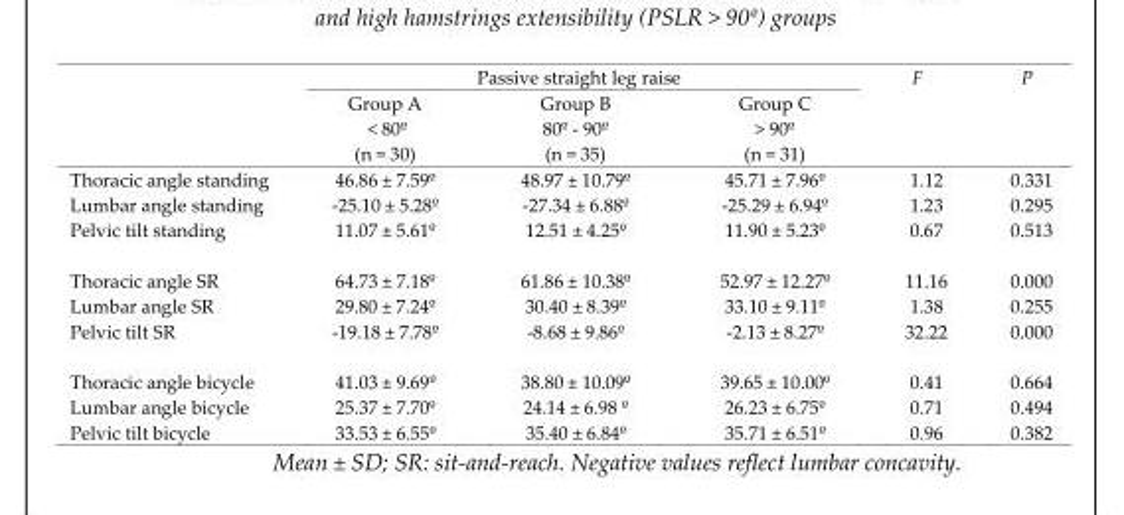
<table><thead><tr><td rowspan="2"></td><td colspan="3">Passive straight leg raise</td><td rowspan="2">F</td><td rowspan="2">P</td></tr><tr><td>Group A &lt; 80º (n = 30)</td><td>Group B 80º - 90º (n = 35)</td><td>Group C &gt; 90º (n = 31)</td></tr></thead><tbody><tr><td>Thoracic angle standing</td><td>46.86 ± 7.59º</td><td>48.97 ± 10.79º</td><td>45.71 ± 7.96º</td><td>1.12</td><td>0.331</td></tr><tr><td>Lumbar angle standing</td><td>-25.10 ± 5.28º</td><td>-27.34 ± 6.88º</td><td>-25.29 ± 6.94º</td><td>1.23</td><td>0.295</td></tr><tr><td>Pelvic tilt standing</td><td>11.07 ± 5.61º</td><td>12.51 ± 4.25º</td><td>11.90 ± 5.23º</td><td>0.67</td><td>0.513</td></tr><tr><td>Thoracic angle SR</td><td>64.73 ± 7.18º</td><td>61.86 ± 10.38º</td><td>52.97 ± 12.27º</td><td>11.16</td><td>0.000</td></tr><tr><td>Lumbar angle SR</td><td>29.80 ± 7.24º</td><td>30.40 ± 8.39º</td><td>33.10 ± 9.11º</td><td>1.38</td><td>0.255</td></tr><tr><td>Pelvic tilt SR</td><td>-19.18 ± 7.78º</td><td>-8.68 ± 9.86º</td><td>-2.13 ± 8.27º</td><td>32.22</td><td>0.000</td></tr><tr><td>Thoracic angle bicycle</td><td>41.03 ± 9.69º</td><td>38.80 ± 10.09º</td><td>39.65 ± 10.00º</td><td>0.41</td><td>0.664</td></tr><tr><td>Lumbar angle bicycle</td><td>25.37 ± 7.70º</td><td>24.14 ± 6.98 º</td><td>26.23 ± 6.75º</td><td>0.71</td><td>0.494</td></tr><tr><td>Pelvic tilt bicycle</td><td>33.53 ± 6.55º</td><td>35.40 ± 6.84º</td><td>35.71 ± 6.51º</td><td>0.96</td><td>0.382</td></tr></tbody></table>